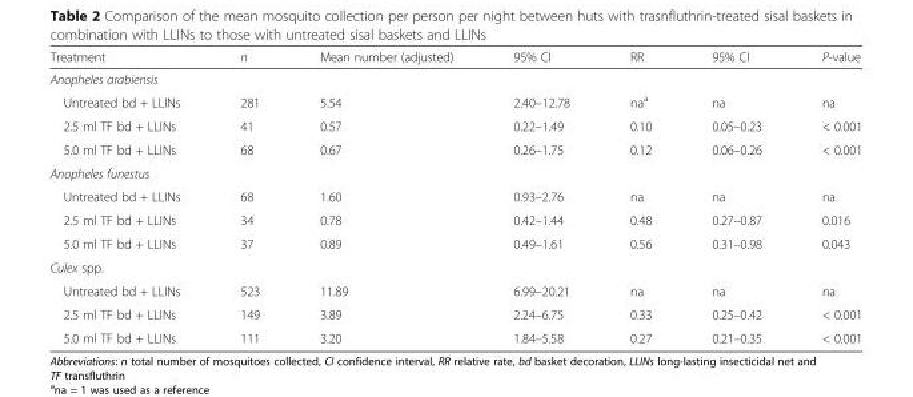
<table><thead><tr><td>Treatment</td><td>n</td><td>Mean number (adjusted)</td><td>95% CI</td><td>RR</td><td>95% CI</td><td>P-value</td></tr></thead><tbody><tr><td colspan="7">Anopheles arabiensis</td></tr><tr><td>Untreated bd + LLINs</td><td>281</td><td>5.54</td><td>2.40–12.78</td><td>na<sup>a</sup></td><td>na</td><td>na</td></tr><tr><td>2.5 ml TF bd + LLINs</td><td>41</td><td>0.57</td><td>0.22–1.49</td><td>0.10</td><td>0.05–0.23</td><td>&lt; 0.001</td></tr><tr><td>5.0 ml TF bd + LLINs</td><td>68</td><td>0.67</td><td>0.26–1.75</td><td>0.12</td><td>0.06–0.26</td><td>&lt; 0.001</td></tr><tr><td colspan="7">Anopheles funestus</td></tr><tr><td>Untreated bd + LLINs</td><td>68</td><td>1.60</td><td>0.93–2.76</td><td>na</td><td>na</td><td>na</td></tr><tr><td>2.5 ml TF bd + LLINs</td><td>34</td><td>0.78</td><td>0.42–1.44</td><td>0.48</td><td>0.27–0.87</td><td>0.016</td></tr><tr><td>5.0 ml TF bd + LLINs</td><td>37</td><td>0.89</td><td>0.49–1.61</td><td>0.56</td><td>0.31–0.98</td><td>0.043</td></tr><tr><td colspan="7">Culex spp.</td></tr><tr><td>Untreated bd + LLINs</td><td>523</td><td>11.89</td><td>6.99–20.21</td><td>na</td><td>na</td><td>na</td></tr><tr><td>2.5 ml TF bd + LLINs</td><td>149</td><td>3.89</td><td>2.24–6.75</td><td>0.33</td><td>0.25–0.42</td><td>&lt; 0.001</td></tr><tr><td>5.0 ml TF bd + LLINs</td><td>111</td><td>3.20</td><td>1.84–5.58</td><td>0.27</td><td>0.21–0.35</td><td>&lt; 0.001</td></tr></tbody></table>